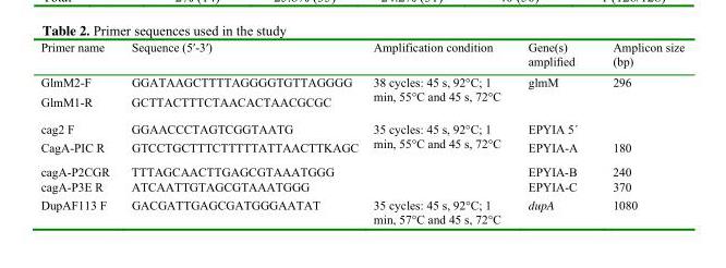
<table><thead><tr><td>Primer name</td><td>Sequence (5′-3′)</td><td>Amplification condition</td><td>Gene(s) amplified</td><td>Amplicon size (bp)</td></tr></thead><tbody><tr><td>GlmM2-F</td><td>GGATAAGCTTTTAGGGGTGTTAGGGG</td><td rowspan="2">38 cycles: 45 s, 92°C; 1 min, 55°C and 45 s, 72°C</td><td rowspan="2">glmM</td><td rowspan="2">296</td></tr><tr><td>GlmM1-R</td><td>GCTTACTTTCTAACACTAACGCGC</td></tr><tr><td>cag2 F</td><td>GGAACCCTAGTCGGTAATG</td><td rowspan="4">35 cycles: 45 s, 92°C; 1 min, 55°C and 45 s, 72°C</td><td>EPYIA 5´</td><td></td></tr><tr><td>CagA-PIC R</td><td>GTCCTGCTTTCTTTTTATTAACTTKAGC</td><td>EPYIA-A</td><td>180</td></tr><tr><td>cagA-P2CGR</td><td>TTTAGCAACTTGAGCGTAAATGGG</td><td>EPYIA-B</td><td>240</td></tr><tr><td>cagA-P3E R</td><td>ATCAATTGTAGCGTAAATGGG</td><td>EPYIA-C</td><td>370</td></tr><tr><td>DupAF113 F</td><td>GACGATTGAGCGATGGGAATAT</td><td>35 cycles: 45 s, 92°C; 1 min, 57°C and 45 s, 72°C</td><td>dupA</td><td>1080</td></tr></tbody></table>